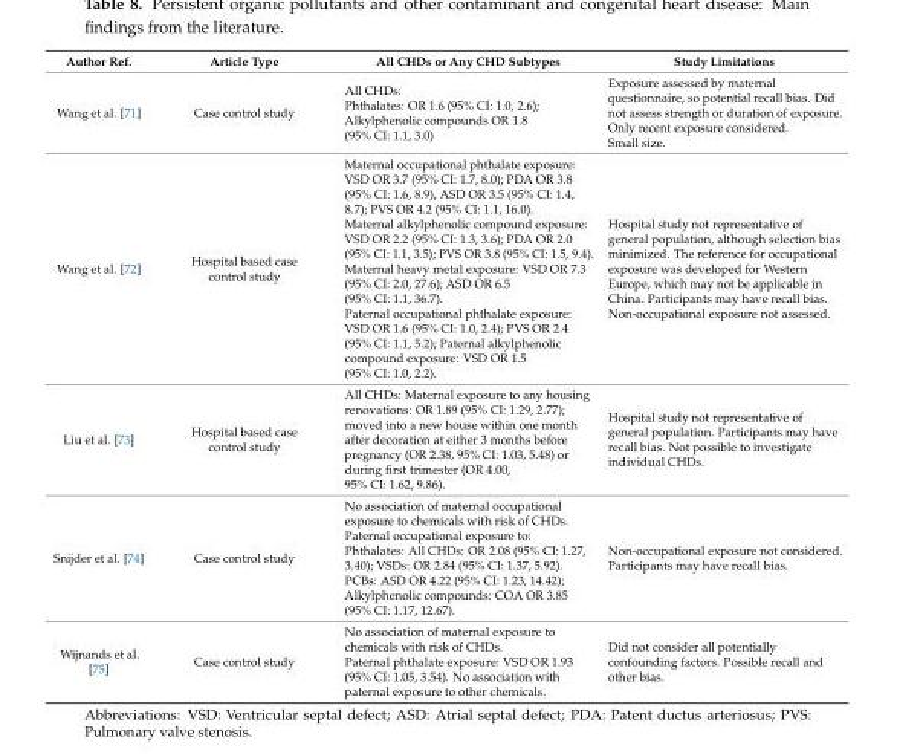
<table><thead><tr><td>Author Ref.</td><td>Article Type</td><td>All CHDs or Any CHD Subtypes</td><td>Study Limitations</td></tr></thead><tbody><tr><td>Wang et al. [71]</td><td>Case control study</td><td>All CHDs: Phthalates: OR 1.6 (95% CI: 1.0, 2.6); Alkylphenolic compounds OR 1.8 (95% CI: 1.1, 3.0)</td><td>Exposure assessed by maternal questionnaire, so potential recall bias. Did not assess strength or duration of exposure. Only recent exposure considered. Small size.</td></tr><tr><td>Wang et al. [72]</td><td>Hospital based case control study</td><td>Maternal occupational phthalate exposure: VSD OR 3.7 (95% CI: 1.7, 8.0); PDA OR 3.8 (95% CI: 1.6, 8.9), ASD OR 3.5 (95% CI: 1.4, 8.7); PVS OR 4.2 (95% CI: 1.1, 16.0). Maternal alkylphenolic compound exposure: VSD OR 2.2 (95% CI: 1.3, 3.6); PDA OR 2.0 (95% CI: 1.1, 3.5); PVS OR 3.8 (95% CI: 1.5, 9.4). Maternal heavy metal exposure: VSD OR 7.3 (95% CI: 2.0, 27.6); ASD OR 6.5 (95% CI: 1.1, 36.7). Paternal occupational phthalate exposure: VSD OR 1.6 (95% CI: 1.0, 2.4); PVS OR 2.4 (95% CI: 1.1, 5.2); Paternal alkylphenolic compound exposure: VSD OR 1.5 (95% CI: 1.0, 2.2).</td><td>Hospital study not representative of general population, although selection bias minimized. The reference for occupational exposure was developed for Western Europe, which may not be applicable in China. Participants may have recall bias. Non-occupational exposure not assessed.</td></tr><tr><td>Liu et al. [73]</td><td>Hospital based case control study</td><td>All CHDs: Maternal exposure to any housing renovations: OR 1.89 (95% CI: 1.29, 2.77); moved into a new house within one month after decoration at either 3 months before pregnancy (OR 2.38, 95% CI: 1.03, 5.48) or during first trimester (OR 4.00, 95% CI: 1.62, 9.86).</td><td>Hospital study not representative of general population. Participants may have recall bias. Not possible to investigate individual CHDs.</td></tr><tr><td>Snijder et al. [74]</td><td>Case control study</td><td>No association of maternal occupational exposure to chemicals with risk of CHDs. Paternal occupational exposure to: Phthalates: All CHDs: OR 2.08 (95% CI: 1.27, 3.40); VSDs: OR 2.84 (95% CI: 1.37, 5.92). PCBs: ASD OR 4.22 (95% CI: 1.23, 14.42); Alkylphenolic compounds: COA OR 3.85 (95% CI: 1.17, 12.67).</td><td>Non-occupational exposure not considered. Participants may have recall bias.</td></tr><tr><td>Wijnands et al. [75]</td><td>Case control study</td><td>No association of maternal exposure to chemicals with risk of CHDs. Paternal phthalate exposure: VSD OR 1.93 (95% CI: 1.05, 3.54). No association with paternal exposure to other chemicals.</td><td>Did not consider all potentially confounding factors. Possible recall and other bias.</td></tr></tbody></table>